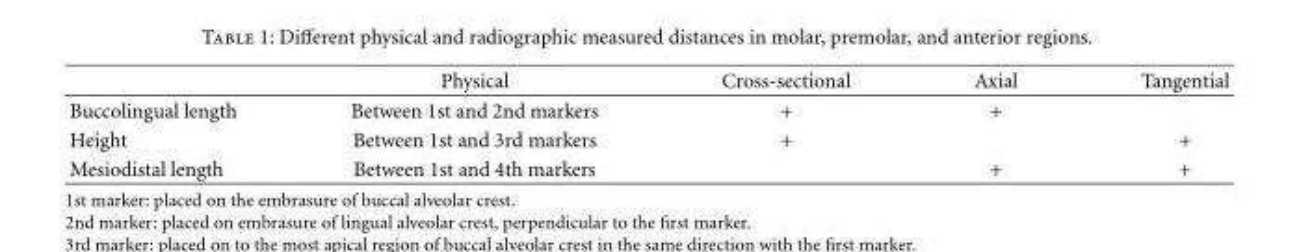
<table><thead><tr><td></td><td>Physical</td><td>Cross-sectional</td><td>Axial</td><td>Tangential</td></tr></thead><tbody><tr><td>Buccolingual length</td><td>Between 1st and 2nd markers</td><td>+</td><td>+</td><td></td></tr><tr><td>Height</td><td>Between 1st and 3rd markers</td><td>+</td><td></td><td>+</td></tr><tr><td>Mesiodistal length</td><td>Between 1st and 4th markers</td><td></td><td>+</td><td>+</td></tr></tbody></table>